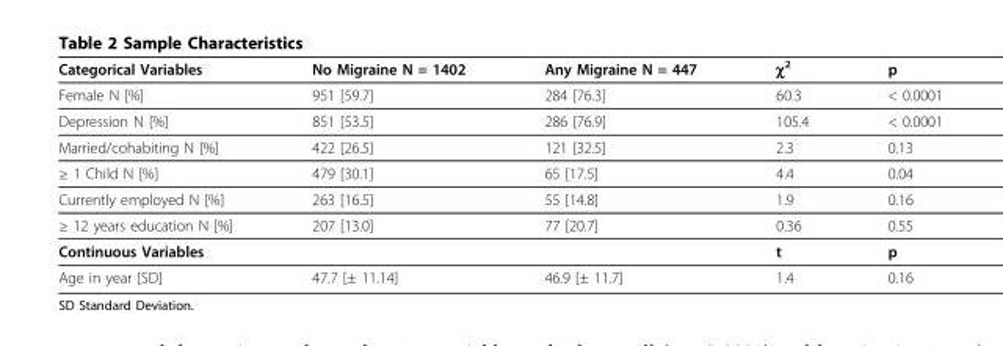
<table><thead><tr><td>Categorical Variables</td><td>No Migraine N = 1402</td><td>Any Migraine N = 447</td><td>χ<sup>2</sup></td><td>p</td></tr></thead><tbody><tr><td>Female N [%]</td><td>951 [59.7]</td><td>284 [76.3]</td><td>60.3</td><td>&lt; 0.0001</td></tr><tr><td>Depression N [%]</td><td>851 [53.5]</td><td>286 [76.9]</td><td>105.4</td><td>&lt; 0.0001</td></tr><tr><td>Married/cohabiting N [%]</td><td>422 [26.5]</td><td>121 [32.5]</td><td>2.3</td><td>0.13</td></tr><tr><td>≥ 1 Child N [%]</td><td>479 [30.1]</td><td>65 [17.5]</td><td>4.4</td><td>0.04</td></tr><tr><td>Currently employed N [%]</td><td>263 [16.5]</td><td>55 [14.8]</td><td>1.9</td><td>0.16</td></tr><tr><td>≥ 12 years education N [%]</td><td>207 [13.0]</td><td>77 [20.7]</td><td>0.36</td><td>0.55</td></tr><tr><td>Continuous Variables</td><td></td><td></td><td>t</td><td>p</td></tr><tr><td>Age in year [SD]</td><td>47.7 [± 11.14]</td><td>46.9 [± 11.7]</td><td>1.4</td><td>0.16</td></tr></tbody></table>